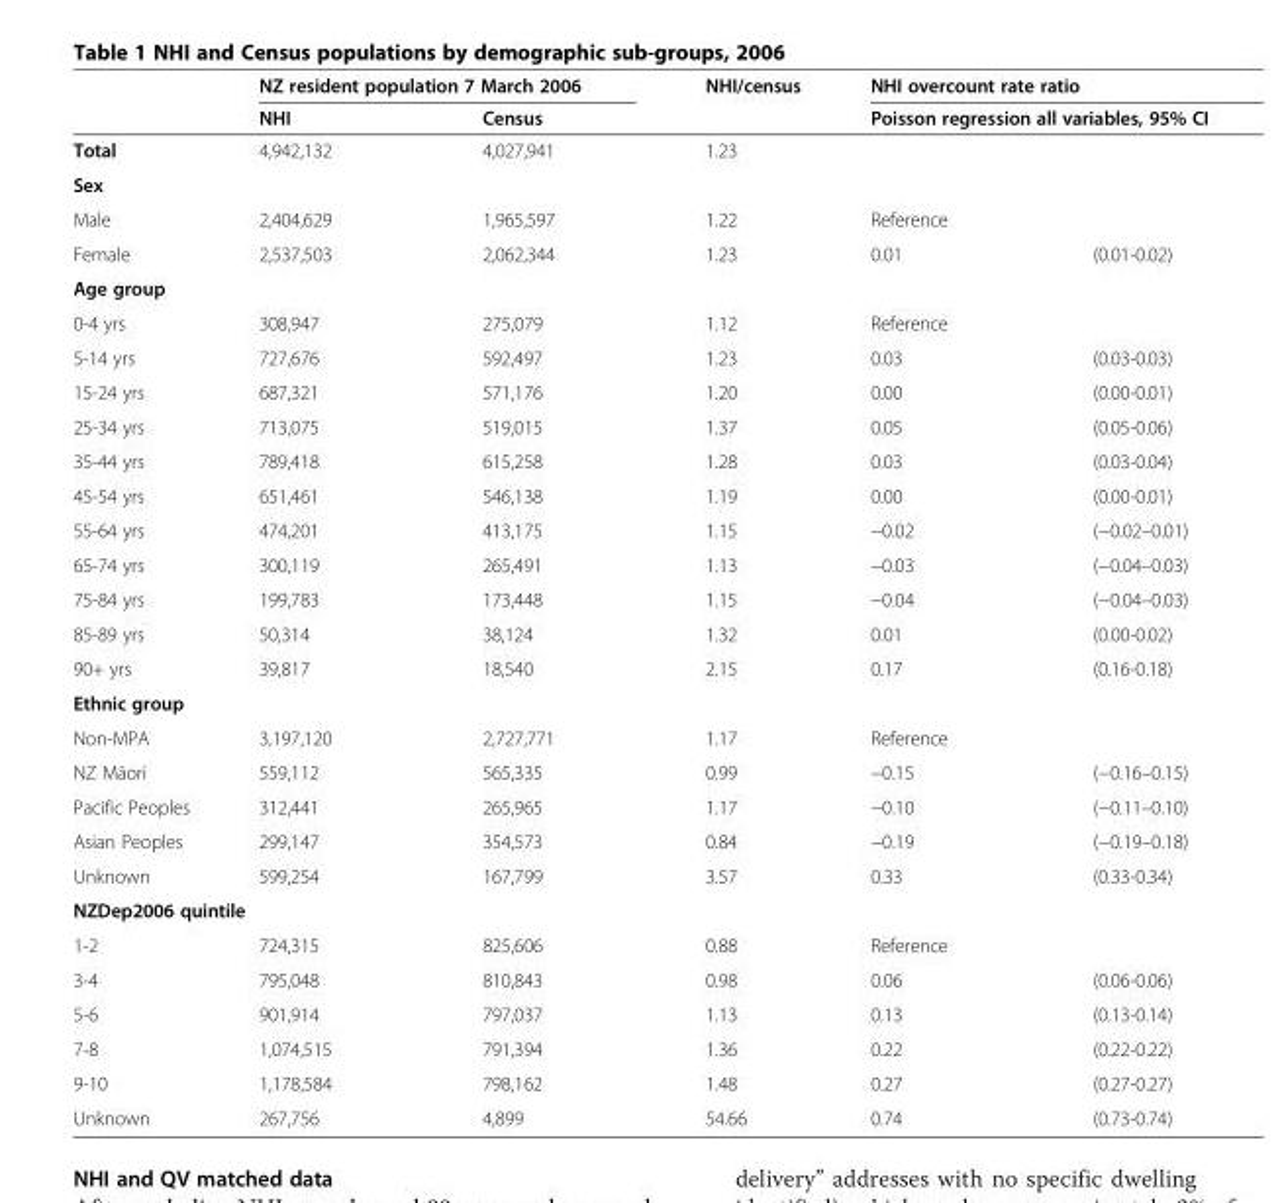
<table><thead><tr><td rowspan="3">Total</td><td colspan="2">NZ resident population 7 March 2006</td><td rowspan="3">NHI/census 1.23</td><td rowspan="2" colspan="2">NHI overcount rate ratio Poisson regression all variables, 95% CI</td></tr><tr><td rowspan="2">NHI 4,942,132</td><td rowspan="2">Census 4,027,941</td></tr><tr><td></td><td></td></tr></thead><tbody><tr><td colspan="6">Sex</td></tr><tr><td>Male</td><td>2,404,629</td><td>1,965,597</td><td>1.22</td><td>Reference</td><td></td></tr><tr><td>Female</td><td>2,537,503</td><td>2,062,344</td><td>1.23</td><td>0.01</td><td>(0.01-0.02)</td></tr><tr><td colspan="6">Age group</td></tr><tr><td>0-4 yrs</td><td>308,947</td><td>275,079</td><td>1.12</td><td>Reference</td><td></td></tr><tr><td>5-14 yrs</td><td>727,676</td><td>592,497</td><td>1.23</td><td>0.03</td><td>(0.03-0.03)</td></tr><tr><td>15-24 yrs</td><td>687,321</td><td>571,176</td><td>1.20</td><td>0.00</td><td>(0.00-0.01)</td></tr><tr><td>25-34 yrs</td><td>713,075</td><td>519,015</td><td>1.37</td><td>0.05</td><td>(0.05-0.06)</td></tr><tr><td>35-44 yrs</td><td>789,418</td><td>615,258</td><td>1.28</td><td>0.03</td><td>(0.03-0.04)</td></tr><tr><td>45-54 yrs</td><td>651,461</td><td>546,138</td><td>1.19</td><td>0.00</td><td>(0.00-0.01)</td></tr><tr><td>55-64 yrs</td><td>474,201</td><td>413,175</td><td>1.15</td><td>−0.02</td><td>(−0.02–0.01)</td></tr><tr><td>65-74 yrs</td><td>300,119</td><td>265,491</td><td>1.13</td><td>−0.03</td><td>(−0.04–0.03)</td></tr><tr><td>75-84 yrs</td><td>199,783</td><td>173,448</td><td>1.15</td><td>−0.04</td><td>(−0.04–0.03)</td></tr><tr><td>85-89 yrs</td><td>50,314</td><td>38,124</td><td>1.32</td><td>0.01</td><td>(0.00-0.02)</td></tr><tr><td>90+ yrs</td><td>39,817</td><td>18,540</td><td>2.15</td><td>0.17</td><td>(0.16-0.18)</td></tr><tr><td colspan="6">Ethnic group</td></tr><tr><td>Non-MPA</td><td>3,197,120</td><td>2,727,771</td><td>1.17</td><td>Reference</td><td></td></tr><tr><td>NZ Māori</td><td>559,112</td><td>565,335</td><td>0.99</td><td>−0.15</td><td>(−0.16–0.15)</td></tr><tr><td>Pacific Peoples</td><td>312,441</td><td>265,965</td><td>1.17</td><td>−0.10</td><td>(−0.11–0.10)</td></tr><tr><td>Asian Peoples</td><td>299,147</td><td>354,573</td><td>0.84</td><td>−0.19</td><td>(−0.19–0.18)</td></tr><tr><td>Unknown</td><td>599,254</td><td>167,799</td><td>3.57</td><td>0.33</td><td>(0.33-0.34)</td></tr><tr><td colspan="6">NZDep2006 quintile</td></tr><tr><td>1-2</td><td>724,315</td><td>825,606</td><td>0.88</td><td>Reference</td><td></td></tr><tr><td>3-4</td><td>795,048</td><td>810,843</td><td>0.98</td><td>0.06</td><td>(0.06-0.06)</td></tr><tr><td>5-6</td><td>901,914</td><td>797,037</td><td>1.13</td><td>0.13</td><td>(0.13-0.14)</td></tr><tr><td>7-8</td><td>1,074,515</td><td>791,394</td><td>1.36</td><td>0.22</td><td>(0.22-0.22)</td></tr><tr><td>9-10</td><td>1,178,584</td><td>798,162</td><td>1.48</td><td>0.27</td><td>(0.27-0.27)</td></tr><tr><td>Unknown</td><td>267,756</td><td>4,899</td><td>54.66</td><td>0.74</td><td>(0.73-0.74)</td></tr></tbody></table>